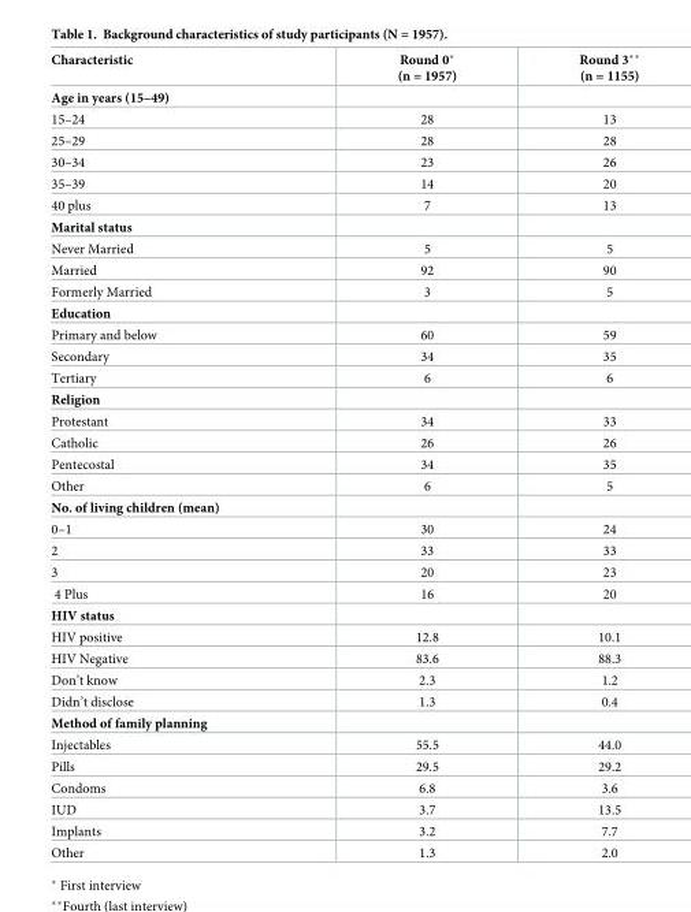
<table><thead><tr><td>Characteristic</td><td>Round 0* (n = 1957)</td><td>Round 3** (n = 1155)</td></tr></thead><tbody><tr><td colspan="3">Age in years (15–49)</td></tr><tr><td>15–24</td><td>28</td><td>13</td></tr><tr><td>25–29</td><td>28</td><td>28</td></tr><tr><td>30–34</td><td>23</td><td>26</td></tr><tr><td>35–39</td><td>14</td><td>20</td></tr><tr><td>40 plus</td><td>7</td><td>13</td></tr><tr><td colspan="3">Marital status</td></tr><tr><td>Never Married</td><td>5</td><td>5</td></tr><tr><td>Married</td><td>92</td><td>90</td></tr><tr><td>Formerly Married</td><td>3</td><td>5</td></tr><tr><td colspan="3">Education</td></tr><tr><td>Primary and below</td><td>60</td><td>59</td></tr><tr><td>Secondary</td><td>34</td><td>35</td></tr><tr><td>Tertiary</td><td>6</td><td>6</td></tr><tr><td colspan="3">Religion</td></tr><tr><td>Protestant</td><td>34</td><td>33</td></tr><tr><td>Catholic</td><td>26</td><td>26</td></tr><tr><td>Pentecostal</td><td>34</td><td>35</td></tr><tr><td>Other</td><td>6</td><td>5</td></tr><tr><td colspan="3">No. of living children (mean)</td></tr><tr><td>0–1</td><td>30</td><td>24</td></tr><tr><td>2</td><td>33</td><td>33</td></tr><tr><td>3</td><td>20</td><td>23</td></tr><tr><td>4 Plus</td><td>16</td><td>20</td></tr><tr><td colspan="3">HIV status</td></tr><tr><td>HIV positive</td><td>12.8</td><td>10.1</td></tr><tr><td>HIV Negative</td><td>83.6</td><td>88.3</td></tr><tr><td>Don’t know</td><td>2.3</td><td>1.2</td></tr><tr><td>Didn’t disclose</td><td>1.3</td><td>0.4</td></tr><tr><td colspan="3">Method of family planning</td></tr><tr><td>Injectables</td><td>55.5</td><td>44.0</td></tr><tr><td>Pills</td><td>29.5</td><td>29.2</td></tr><tr><td>Condoms</td><td>6.8</td><td>3.6</td></tr><tr><td>IUD</td><td>3.7</td><td>13.5</td></tr><tr><td>Implants</td><td>3.2</td><td>7.7</td></tr><tr><td>Other</td><td>1.3</td><td>2.0</td></tr></tbody></table>